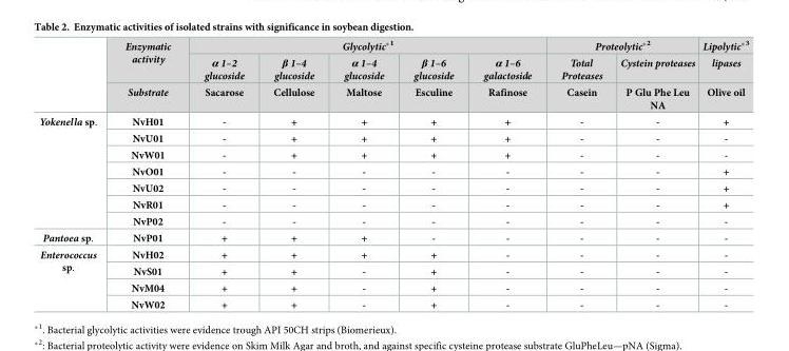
<table><thead><tr><td rowspan="3"></td><td rowspan="3">Enzymatic activity Substrate</td><td colspan="5">Glycolytic*<sup>1</sup></td><td colspan="2">Proteolytic*<sup>2</sup></td><td rowspan="3">Lipolytic*<sup>3</sup> lipases Olive oil</td></tr><tr><td rowspan="2">α 1–2 glucoside Sacarose</td><td rowspan="2">β 1–4 glucoside Cellulose</td><td rowspan="2">α 1–4 glucoside Maltose</td><td rowspan="2">β 1–6 glucoside Esculine</td><td rowspan="2">α 1–6 galactoside Rafinose</td><td rowspan="2">Total Proteases Casein</td><td rowspan="2">Cystein proteases P Glu Phe Leu NA</td></tr><tr></tr></thead><tbody><tr><td rowspan="7">Yokenella sp.</td><td>NvH01</td><td>-</td><td>+</td><td>+</td><td>+</td><td>+</td><td>-</td><td>-</td><td>+</td></tr><tr><td>NvU01</td><td>-</td><td>+</td><td>+</td><td>+</td><td>+</td><td>-</td><td>-</td><td>-</td></tr><tr><td>NvW01</td><td>-</td><td>+</td><td>+</td><td>+</td><td>+</td><td>-</td><td>-</td><td>-</td></tr><tr><td>NvO01</td><td>-</td><td>-</td><td>-</td><td>-</td><td>-</td><td>-</td><td>-</td><td>+</td></tr><tr><td>NvU02</td><td>-</td><td>-</td><td>-</td><td>-</td><td>-</td><td>-</td><td>-</td><td>+</td></tr><tr><td>NvR01</td><td>-</td><td>-</td><td>-</td><td>-</td><td>-</td><td>-</td><td>-</td><td>+</td></tr><tr><td>NvP02</td><td>-</td><td>-</td><td>-</td><td>-</td><td>-</td><td>-</td><td>-</td><td>-</td></tr><tr><td>Pantoea sp.</td><td>NvP01</td><td>+</td><td>+</td><td>+</td><td>-</td><td>-</td><td>-</td><td>-</td><td>-</td></tr><tr><td rowspan="4">Enterococcus sp.</td><td>NvH02</td><td>+</td><td>+</td><td>+</td><td>+</td><td>-</td><td>-</td><td>-</td><td>-</td></tr><tr><td>NvS01</td><td>+</td><td>+</td><td>-</td><td>+</td><td>-</td><td>-</td><td>-</td><td>-</td></tr><tr><td>NvM04</td><td>+</td><td>+</td><td>-</td><td>+</td><td>-</td><td>-</td><td>-</td><td>-</td></tr><tr><td>NvW02</td><td>+</td><td>+</td><td>-</td><td>+</td><td>-</td><td>-</td><td>-</td><td>-</td></tr></tbody></table>